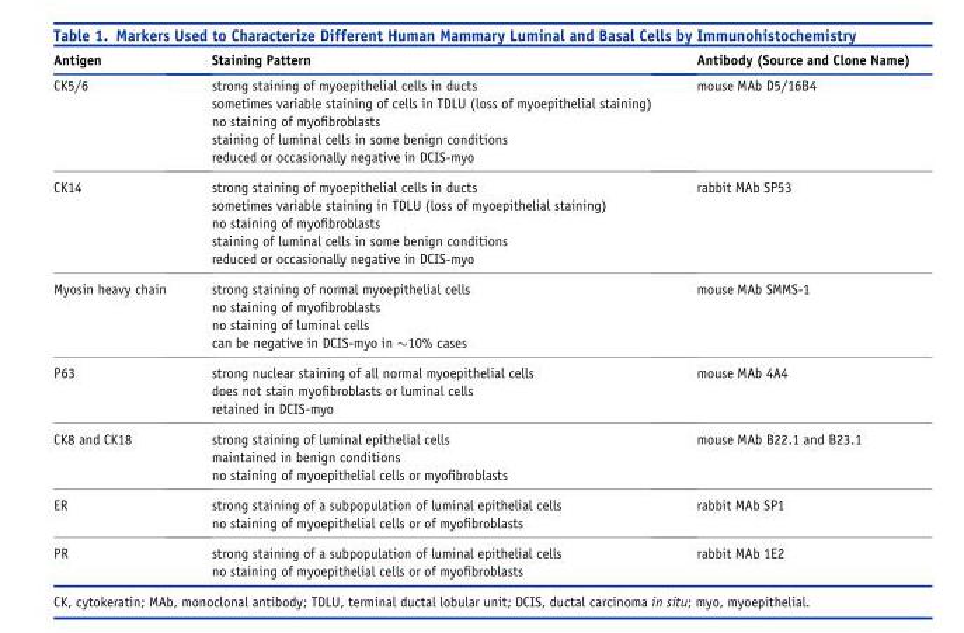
<table><thead><tr><td>Antigen</td><td>Staining Pattern</td><td>Antibody (Source and Clone Name)</td></tr></thead><tbody><tr><td>CK5/6</td><td>strong staining of myoepithelial cells in ducts sometimes variable staining of cells in TDLU (loss of myoepithelial staining) no staining of myofibroblasts staining of luminal cells in some benign conditions reduced or occasionally negative in DCIS-myo</td><td>mouse MAb D5/16B4</td></tr><tr><td>CK14</td><td>strong staining of myoepithelial cells in ducts sometimes variable staining in TDLU (loss of myoepithelial staining) no staining of myofibroblasts staining of luminal cells in some benign conditions reduced or occasionally negative in DCIS-myo</td><td>rabbit MAb SP53</td></tr><tr><td>Myosin heavy chain</td><td>strong staining of normal myoepithelial cells no staining of myofibroblasts no staining of luminal cells can be negative in DCIS-myo in ∼10% cases</td><td>mouse MAb SMMS-1</td></tr><tr><td>P63</td><td>strong nuclear staining of all normal myoepithelial cells does not stain myofibroblasts or luminal cells retained in DCIS-myo</td><td>mouse MAb 4A4</td></tr><tr><td>CK8 and CK18</td><td>strong staining of luminal epithelial cells maintained in benign conditions no staining of myoepithelial cells or myofibroblasts</td><td>mouse MAb B22.1 and B23.1</td></tr><tr><td>ER</td><td>strong staining of a subpopulation of luminal epithelial cells no staining of myoepithelial cells or of myofibroblasts</td><td>rabbit MAb SP1</td></tr><tr><td>PR</td><td>strong staining of a subpopulation of luminal epithelial cells no staining of myoepithelial cells or of myofibroblasts</td><td>rabbit MAb 1E2</td></tr></tbody></table>